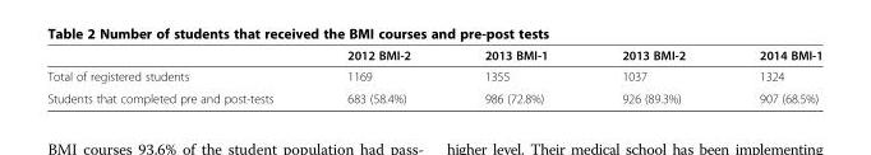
<table><thead><tr><td></td><td>2012 BMI-2</td><td>2013 BMI-1</td><td>2013 BMI-2</td><td>2014 BMI-1</td></tr></thead><tbody><tr><td>Total of registered students</td><td>1169</td><td>1355</td><td>1037</td><td>1324</td></tr><tr><td>Students that completed pre and post-tests</td><td>683 (58.4%)</td><td>986 (72.8%)</td><td>926 (89.3%)</td><td>907 (68.5%)</td></tr></tbody></table>